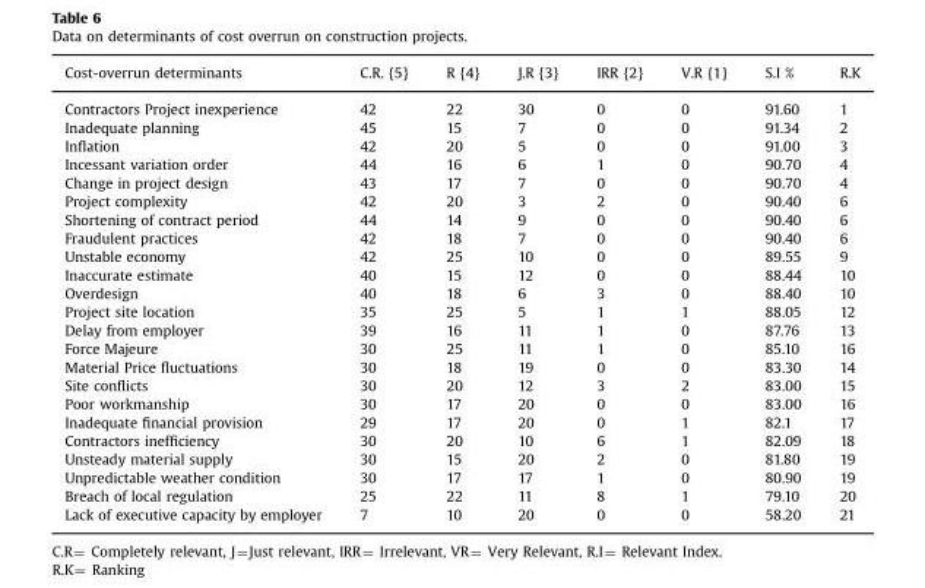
<table><thead><tr><td>Cost-overrun determinants</td><td>C.R. {5}</td><td>R {4}</td><td>J.R {3}</td><td>IRR {2}</td><td>V.R {1}</td><td>S.I %</td><td>R.K</td></tr></thead><tbody><tr><td>Contractors Project inexperience</td><td>42</td><td>22</td><td>30</td><td>0</td><td>0</td><td>91.60</td><td>1</td></tr><tr><td>Inadequate planning</td><td>45</td><td>15</td><td>7</td><td>0</td><td>0</td><td>91.34</td><td>2</td></tr><tr><td>Inflation</td><td>42</td><td>20</td><td>5</td><td>0</td><td>0</td><td>91.00</td><td>3</td></tr><tr><td>Incessant variation order</td><td>44</td><td>16</td><td>6</td><td>1</td><td>0</td><td>90.70</td><td>4</td></tr><tr><td>Change in project design</td><td>43</td><td>17</td><td>7</td><td>0</td><td>0</td><td>90.70</td><td>4</td></tr><tr><td>Project complexity</td><td>42</td><td>20</td><td>3</td><td>2</td><td>0</td><td>90.40</td><td>6</td></tr><tr><td>Shortening of contract period</td><td>44</td><td>14</td><td>9</td><td>0</td><td>0</td><td>90.40</td><td>6</td></tr><tr><td>Fraudulent practices</td><td>42</td><td>18</td><td>7</td><td>0</td><td>0</td><td>90.40</td><td>6</td></tr><tr><td>Unstable economy</td><td>42</td><td>25</td><td>10</td><td>0</td><td>0</td><td>89.55</td><td>9</td></tr><tr><td>Inaccurate estimate</td><td>40</td><td>15</td><td>12</td><td>0</td><td>0</td><td>88.44</td><td>10</td></tr><tr><td>Overdesign</td><td>40</td><td>18</td><td>6</td><td>3</td><td>0</td><td>88.40</td><td>10</td></tr><tr><td>Project site location</td><td>35</td><td>25</td><td>5</td><td>1</td><td>1</td><td>88.05</td><td>12</td></tr><tr><td>Delay from employer</td><td>39</td><td>16</td><td>11</td><td>1</td><td>0</td><td>87.76</td><td>13</td></tr><tr><td>Force Majeure</td><td>30</td><td>25</td><td>11</td><td>1</td><td>0</td><td>85.10</td><td>16</td></tr><tr><td>Material Price fluctuations</td><td>30</td><td>18</td><td>19</td><td>0</td><td>0</td><td>83.30</td><td>14</td></tr><tr><td>Site conflicts</td><td>30</td><td>20</td><td>12</td><td>3</td><td>2</td><td>83.00</td><td>15</td></tr><tr><td>Poor workmanship</td><td>30</td><td>17</td><td>20</td><td>0</td><td>0</td><td>83.00</td><td>16</td></tr><tr><td>Inadequate financial provision</td><td>29</td><td>17</td><td>20</td><td>0</td><td>1</td><td>82.1</td><td>17</td></tr><tr><td>Contractors inefficiency</td><td>30</td><td>20</td><td>10</td><td>6</td><td>1</td><td>82.09</td><td>18</td></tr><tr><td>Unsteady material supply</td><td>30</td><td>15</td><td>20</td><td>2</td><td>0</td><td>81.80</td><td>19</td></tr><tr><td>Unpredictable weather condition</td><td>30</td><td>17</td><td>17</td><td>1</td><td>0</td><td>80.90</td><td>19</td></tr><tr><td>Breach of local regulation</td><td>25</td><td>22</td><td>11</td><td>8</td><td>1</td><td>79.10</td><td>20</td></tr><tr><td>Lack of executive capacity by employer</td><td>7</td><td>10</td><td>20</td><td>0</td><td>0</td><td>58.20</td><td>21</td></tr></tbody></table>